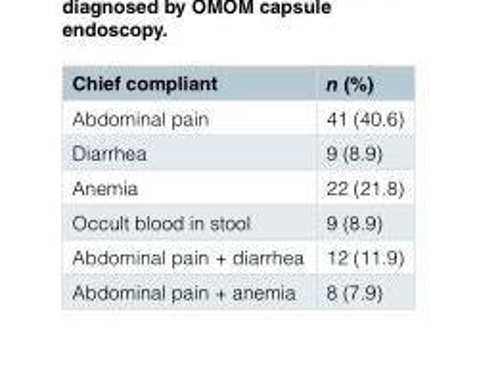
<table><thead><tr><td>Chief compliant</td><td>n (%)</td></tr></thead><tbody><tr><td>Abdominal pain</td><td>41 (40.6)</td></tr><tr><td>Diarrhea</td><td>9 (8.9)</td></tr><tr><td>Anemia</td><td>22 (21.8)</td></tr><tr><td>Occult blood in stool</td><td>9 (8.9)</td></tr><tr><td>Abdominal pain + diarrhea</td><td>12 (11.9)</td></tr><tr><td>Abdominal pain + anemia</td><td>8 (7.9)</td></tr></tbody></table>